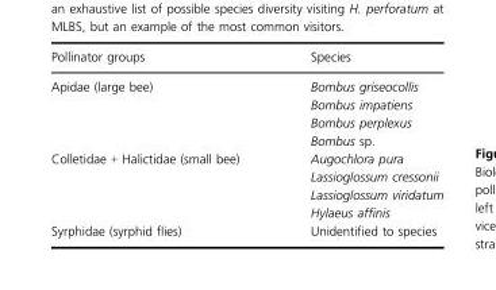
<table><thead><tr><td>Pollinator groups</td><td>Species</td></tr></thead><tbody><tr><td rowspan="4">Apidae (large bee)</td><td>Bombus griseocollis</td></tr><tr><td>Bombus impatiens</td></tr><tr><td>Bombus perplexus</td></tr><tr><td>Bombus sp.</td></tr><tr><td rowspan="4">Colletidae + Halictidae (small bee)</td><td>Augochlora pura</td></tr><tr><td>Lassioglossum cressonii</td></tr><tr><td>Lassioglossum viridatum</td></tr><tr><td>Hylaeus affinis</td></tr><tr><td>Syrphidae (syrphid flies)</td><td>Unidentified to species</td></tr></tbody></table>